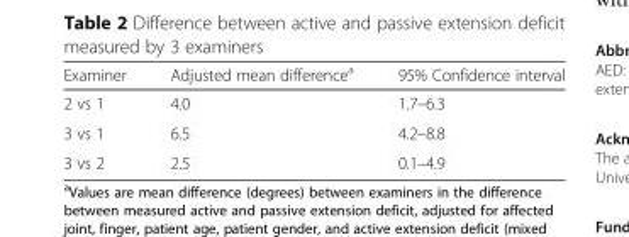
<table><thead><tr><td>Examiner</td><td>Adjusted mean difference<sup>a</sup></td><td>95% Confidence interval</td></tr></thead><tbody><tr><td>2 vs 1</td><td>4.0</td><td>1.7–6.3</td></tr><tr><td>3 vs 1</td><td>6.5</td><td>4.2–8.8</td></tr><tr><td>3 vs 2</td><td>2.5</td><td>0.1–4.9</td></tr></tbody></table>